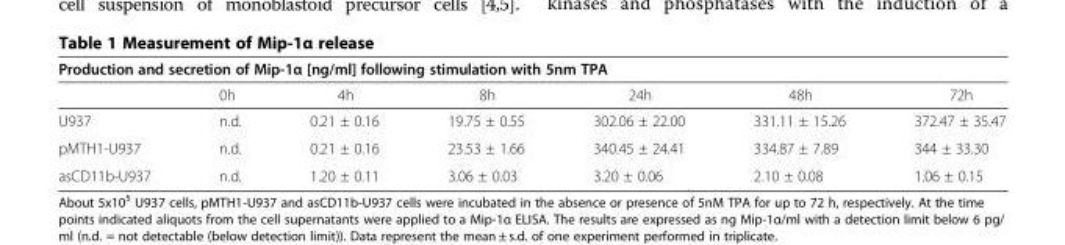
<table><thead><tr><td colspan="7">Production and secretion of Mip-1α [ng/ml] following stimulation with 5nm TPA</td></tr><tr><td></td><td>0h</td><td>4h</td><td>8h</td><td>24h</td><td>48h</td><td>72h</td></tr></thead><tbody><tr><td>U937</td><td>n.d.</td><td>0.21 ± 0.16</td><td>19.75 ± 0.55</td><td>302.06 ± 22.00</td><td>331.11 ± 15.26</td><td>372.47 ± 35.47</td></tr><tr><td>pMTH1-U937</td><td>n.d.</td><td>0.21 ± 0.16</td><td>23.53 ± 1.66</td><td>340.45 ± 24.41</td><td>334.87 ± 7.89</td><td>344 ± 33.30</td></tr><tr><td>asCD11b-U937</td><td>n.d.</td><td>1.20 ± 0.11</td><td>3.06 ± 0.03</td><td>3.20 ± 0.06</td><td>2.10 ± 0.08</td><td>1.06 ± 0.15</td></tr></tbody></table>